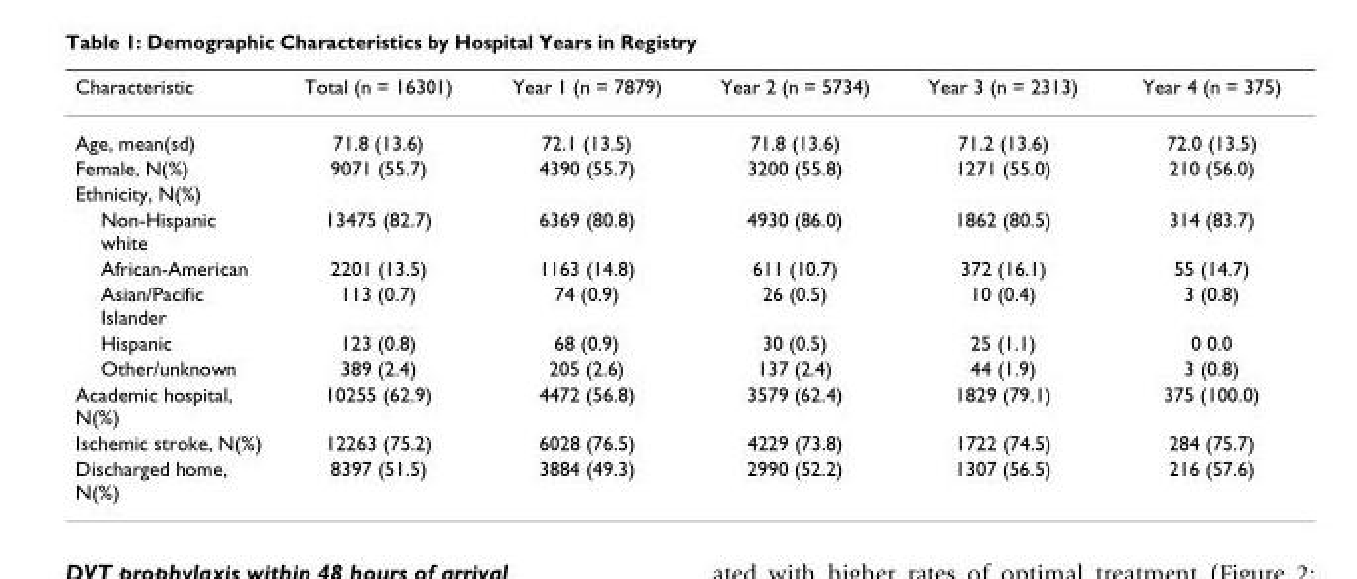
<table><thead><tr><td>Characteristic</td><td>Total (n = 16301)</td><td>Year 1 (n = 7879)</td><td>Year 2 (n = 5734)</td><td>Year 3 (n = 2313)</td><td>Year 4 (n = 375)</td></tr></thead><tbody><tr><td>Age, mean(sd)</td><td>71.8 (13.6)</td><td>72.1 (13.5)</td><td>71.8 (13.6)</td><td>71.2 (13.6)</td><td>72.0 (13.5)</td></tr><tr><td>Female, N(%)</td><td>9071 (55.7)</td><td>4390 (55.7)</td><td>3200 (55.8)</td><td>1271 (55.0)</td><td>210 (56.0)</td></tr><tr><td colspan="6">Ethnicity, N(%)</td></tr><tr><td>Non-Hispanic white</td><td>13475 (82.7)</td><td>6369 (80.8)</td><td>4930 (86.0)</td><td>1862 (80.5)</td><td>314 (83.7)</td></tr><tr><td>African-American</td><td>2201 (13.5)</td><td>1163 (14.8)</td><td>611 (10.7)</td><td>372 (16.1)</td><td>55 (14.7)</td></tr><tr><td>Asian/Pacific Islander</td><td>113 (0.7)</td><td>74 (0.9)</td><td>26 (0.5)</td><td>10 (0.4)</td><td>3 (0.8)</td></tr><tr><td>Hispanic</td><td>123 (0.8)</td><td>68 (0.9)</td><td>30 (0.5)</td><td>25 (1.1)</td><td>0 0.0</td></tr><tr><td>Other/unknown</td><td>389 (2.4)</td><td>205 (2.6)</td><td>137 (2.4)</td><td>44 (1.9)</td><td>3 (0.8)</td></tr><tr><td>Academic hospital, N(%)</td><td>10255 (62.9)</td><td>4472 (56.8)</td><td>3579 (62.4)</td><td>1829 (79.1)</td><td>375 (100.0)</td></tr><tr><td>Ischemic stroke, N(%)</td><td>12263 (75.2)</td><td>6028 (76.5)</td><td>4229 (73.8)</td><td>1722 (74.5)</td><td>284 (75.7)</td></tr><tr><td>Discharged home, N(%)</td><td>8397 (51.5)</td><td>3884 (49.3)</td><td>2990 (52.2)</td><td>1307 (56.5)</td><td>216 (57.6)</td></tr></tbody></table>